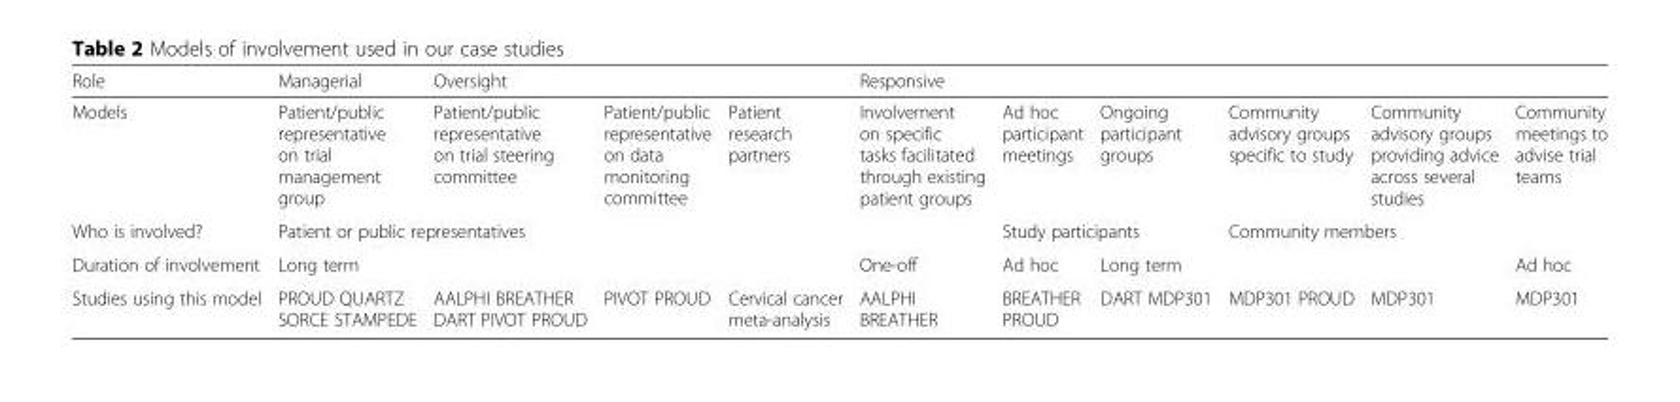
<table><thead><tr><td rowspan="2">Role Models</td><td rowspan="2">Managerial Patient/public representative on trial management group</td><td colspan="3">Oversight</td><td colspan="6">Responsive</td></tr><tr><td>Patient/public representative on trial steering committee</td><td>Patient/public representative on data monitoring committee</td><td>Patient research partners</td><td>Involvement on specific tasks facilitated through existing patient groups</td><td>Ad hoc participant meetings</td><td>Ongoing participant groups</td><td>Community advisory groups specific to study</td><td>Community advisory groups providing advice across several studies</td><td>Community meetings to advise trial teams</td></tr></thead><tbody><tr><td>Who is involved?</td><td colspan="5">Patient or public representatives</td><td colspan="2">Study participants</td><td colspan="3">Community members</td></tr><tr><td>Duration of involvement</td><td colspan="4">Long term</td><td>One-off</td><td>Ad hoc</td><td colspan="3">Long term</td><td>Ad hoc</td></tr><tr><td>Studies using this model</td><td>PROUD QUARTZ SORCE STAMPEDE</td><td>AALPHI BREATHER DART PIVOT PROUD</td><td>PIVOT PROUD</td><td>Cervical cancer meta-analysis</td><td>AALPHI BREATHER</td><td>BREATHER PROUD</td><td>DART MDP301</td><td>MDP301 PROUD</td><td>MDP301</td><td>MDP301</td></tr></tbody></table>